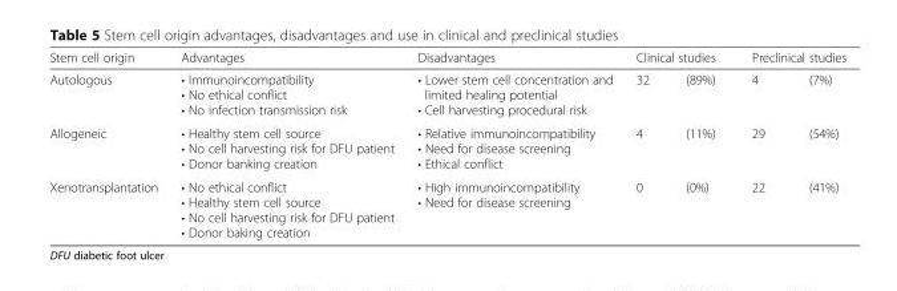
<table><thead><tr><td rowspan="2">Stem cell origin Autologous</td><td rowspan="2">Advantages • Immunoincompatibility • No ethical conflict • No infection transmission risk</td><td rowspan="2">Disadvantages • Lower stem cell concentration and limited healing potential • Cell harvesting procedural risk</td><td colspan="2">Clinical studies</td><td colspan="2">Preclinical studies</td></tr><tr><td>32</td><td>(89%)</td><td>4</td><td>(7%)</td></tr></thead><tbody><tr><td>Allogeneic</td><td>• Healthy stem cell source • No cell harvesting risk for DFU patient • Donor banking creation</td><td>• Relative immunoincompatibility • Need for disease screening • Ethical conflict</td><td>4</td><td>(11%)</td><td>29</td><td>(54%)</td></tr><tr><td>Xenotransplantation</td><td>• No ethical conflict • Healthy stem cell source • No cell harvesting risk for DFU patient • Donor baking creation</td><td>• High immunoincompatibility • Need for disease screening</td><td>0</td><td>(0%)</td><td>22</td><td>(41%)</td></tr></tbody></table>